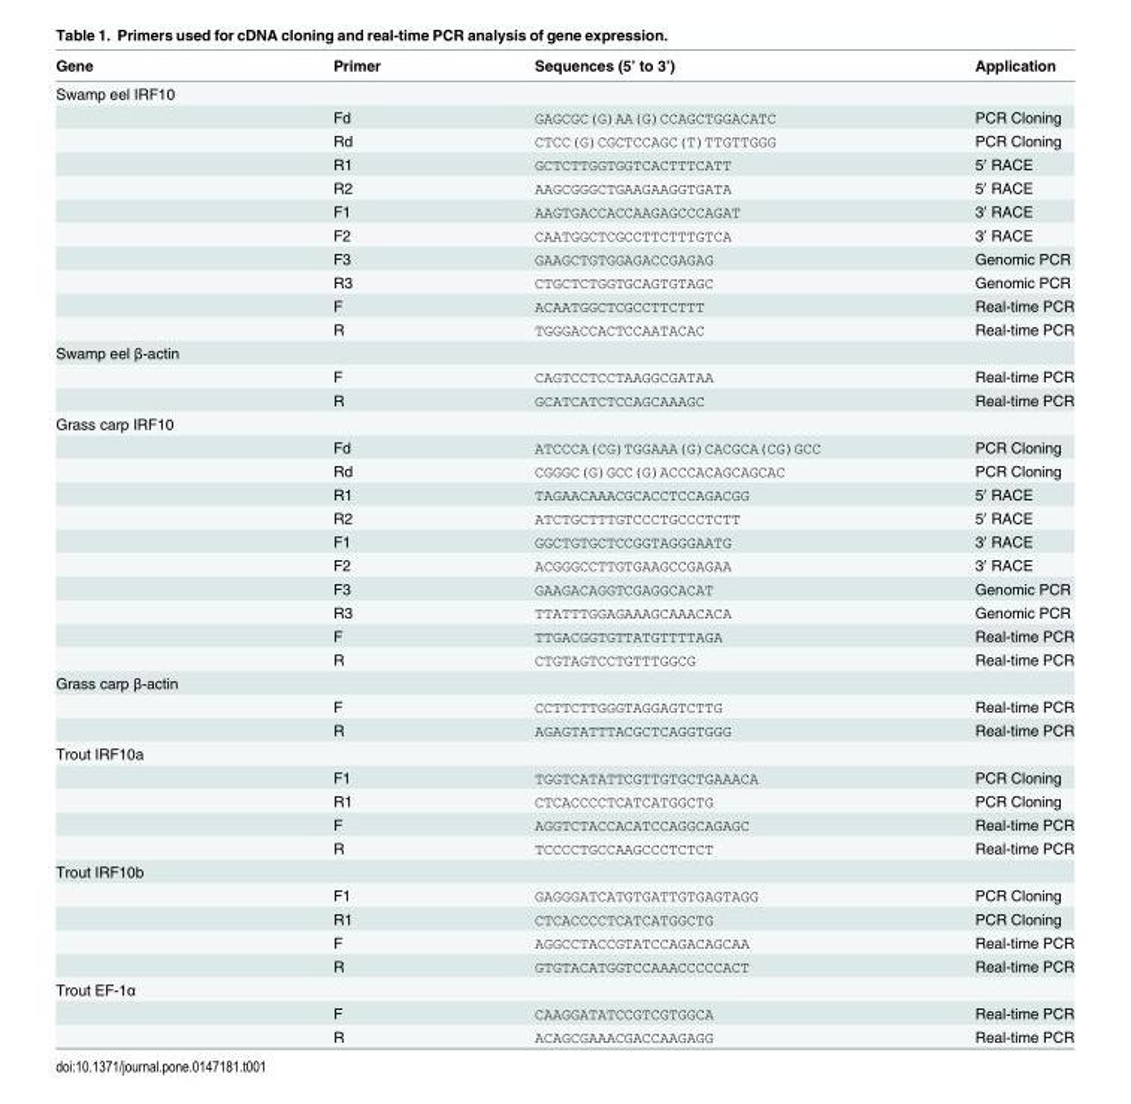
<table><thead><tr><td>Gene</td><td>Primer</td><td>Sequences (5’ to 3’)</td><td>Application</td></tr></thead><tbody><tr><td colspan="4">Swamp eel IRF10</td></tr><tr><td></td><td>Fd</td><td>GAGCGC(G)AA(G)CCAGCTGGACATC</td><td>PCR Cloning</td></tr><tr><td></td><td>Rd</td><td>CTCC(G)CGCTCCAGC(T)TTGTTGGG</td><td>PCR Cloning</td></tr><tr><td></td><td>R1</td><td>GCTCTTGGTGGTCACTTTCATT</td><td>5′ RACE</td></tr><tr><td></td><td>R2</td><td>AAGCGGGCTGAAGAAGGTGATA</td><td>5′ RACE</td></tr><tr><td></td><td>F1</td><td>AAGTGACCACCAAGAGCCCAGAT</td><td>3′ RACE</td></tr><tr><td></td><td>F2</td><td>CAATGGCTCGCCTTCTTTGTCA</td><td>3′ RACE</td></tr><tr><td></td><td>F3</td><td>GAAGCTGTGGAGACCGAGAG</td><td>Genomic PCR</td></tr><tr><td></td><td>R3</td><td>CTGCTCTGGTGCAGTGTAGC</td><td>Genomic PCR</td></tr><tr><td></td><td>F</td><td>ACAATGGCTCGCCTTCTTT</td><td>Real-time PCR</td></tr><tr><td></td><td>R</td><td>TGGGACCACTCCAATACAC</td><td>Real-time PCR</td></tr><tr><td colspan="4">Swamp eel β-actin</td></tr><tr><td></td><td>F</td><td>CAGTCCTCCTAAGGCGATAA</td><td>Real-time PCR</td></tr><tr><td></td><td>R</td><td>GCATCATCTCCAGCAAAGC</td><td>Real-time PCR</td></tr><tr><td colspan="4">Grass carp IRF10</td></tr><tr><td></td><td>Fd</td><td>ATCCCA(CG)TGGAAA(G)CACGCA(CG)GCC</td><td>PCR Cloning</td></tr><tr><td></td><td>Rd</td><td>CGGGC(G)GCC(G)ACCCACAGCAGCAC</td><td>PCR Cloning</td></tr><tr><td></td><td>R1</td><td>TAGAACAAACGCACCTCCAGACGG</td><td>5′ RACE</td></tr><tr><td></td><td>R2</td><td>ATCTGCTTTGTCCCTGCCCTCTT</td><td>5′ RACE</td></tr><tr><td></td><td>F1</td><td>GGCTGTGCTCCGGTAGGGAATG</td><td>3′ RACE</td></tr><tr><td></td><td>F2</td><td>ACGGGCCTTGTGAAGCCGAGAA</td><td>3′ RACE</td></tr><tr><td></td><td>F3</td><td>GAAGACAGGTCGAGGCACAT</td><td>Genomic PCR</td></tr><tr><td></td><td>R3</td><td>TTATTTGGAGAAAGCAAACACA</td><td>Genomic PCR</td></tr><tr><td></td><td>F</td><td>TTGACGGTGTTATGTTTTAGA</td><td>Real-time PCR</td></tr><tr><td></td><td>R</td><td>CTGTAGTCCTGTTTGGCG</td><td>Real-time PCR</td></tr><tr><td colspan="4">Grass carp β-actin</td></tr><tr><td></td><td>F</td><td>CCTTCTTGGGTAGGAGTCTTG</td><td>Real-time PCR</td></tr><tr><td></td><td>R</td><td>AGAGTATTTACGCTCAGGTGGG</td><td>Real-time PCR</td></tr><tr><td colspan="4">Trout IRF10a</td></tr><tr><td></td><td>F1</td><td>TGGTCATATTCGTTGTGCTGAAACA</td><td>PCR Cloning</td></tr><tr><td></td><td>R1</td><td>CTCACCCCTCATCATGGCTG</td><td>PCR Cloning</td></tr><tr><td></td><td>F</td><td>AGGTCTACCACATCCAGGCAGAGC</td><td>Real-time PCR</td></tr><tr><td></td><td>R</td><td>TCCCCTGCCAAGCCCTCTCT</td><td>Real-time PCR</td></tr><tr><td colspan="4">Trout IRF10b</td></tr><tr><td></td><td>F1</td><td>GAGGGATCATGTGATTGTGAGTAGG</td><td>PCR Cloning</td></tr><tr><td></td><td>R1</td><td>CTCACCCCTCATCATGGCTG</td><td>PCR Cloning</td></tr><tr><td></td><td>F</td><td>AGGCCTACCGTATCCAGACAGCAA</td><td>Real-time PCR</td></tr><tr><td></td><td>R</td><td>GTGTACATGGTCCAAACCCCCACT</td><td>Real-time PCR</td></tr><tr><td colspan="4">Trout EF-1α</td></tr><tr><td></td><td>F</td><td>CAAGGATATCCGTCGTGGCA</td><td>Real-time PCR</td></tr><tr><td></td><td>R</td><td>ACAGCGAAACGACCAAGAGG</td><td>Real-time PCR</td></tr></tbody></table>